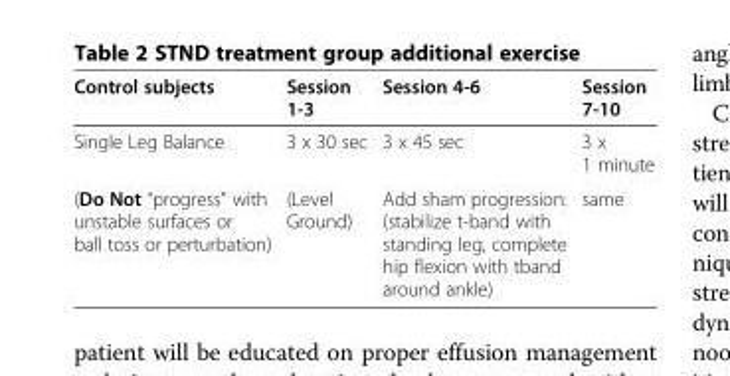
<table><thead><tr><td>Control subjects</td><td>Session 1-3</td><td>Session 4-6</td><td>Session 7-10</td></tr></thead><tbody><tr><td>Single Leg Balance</td><td>3 x 30 sec</td><td>3 x 45 sec</td><td>3 x 1 minute</td></tr><tr><td>(Do Not “progress” with unstable surfaces or ball toss or perturbation)</td><td>(Level Ground)</td><td>Add sham progression: (stabilize t-band with standing leg, complete hip flexion with tband around ankle)</td><td>same</td></tr></tbody></table>